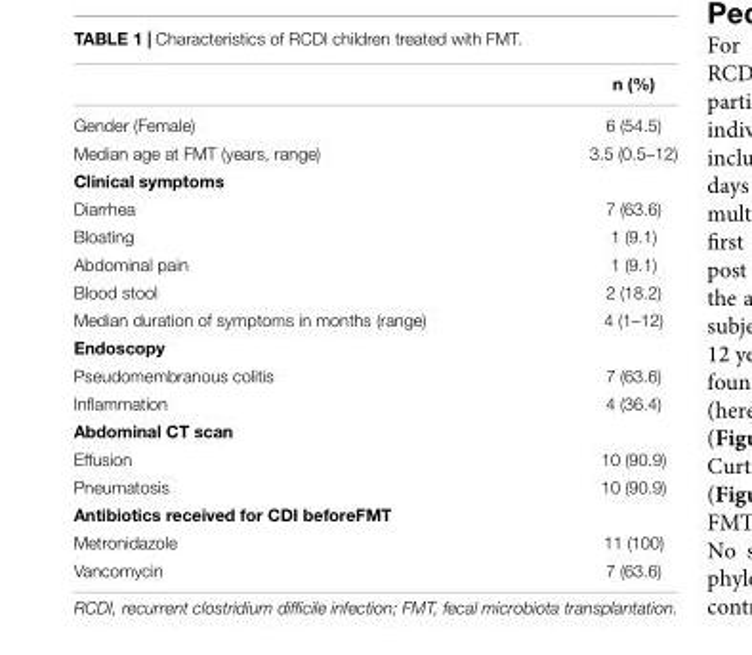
<table><thead><tr><td></td><td>n (%)</td></tr></thead><tbody><tr><td>Gender (Female)</td><td>6 (54.5)</td></tr><tr><td>Median age at FMT (years, range)</td><td>3.5 (0.5–12)</td></tr><tr><td colspan="2">Clinical symptoms</td></tr><tr><td>Diarrhea</td><td>7 (63.6)</td></tr><tr><td>Bloating</td><td>1 (9.1)</td></tr><tr><td>Abdominal pain</td><td>1 (9.1)</td></tr><tr><td>Blood stool</td><td>2 (18.2)</td></tr><tr><td>Median duration of symptoms in months (range)</td><td>4 (1–12)</td></tr><tr><td colspan="2">Endoscopy</td></tr><tr><td>Pseudomembranous colitis</td><td>7 (63.6)</td></tr><tr><td>Inflammation</td><td>4 (36.4)</td></tr><tr><td colspan="2">Abdominal CT scan</td></tr><tr><td>Effusion</td><td>10 (90.9)</td></tr><tr><td>Pneumatosis</td><td>10 (90.9)</td></tr><tr><td colspan="2">Antibiotics received for CDI beforeFMT</td></tr><tr><td>Metronidazole</td><td>11 (100)</td></tr><tr><td>Vancomycin</td><td>7 (63.6)</td></tr></tbody></table>